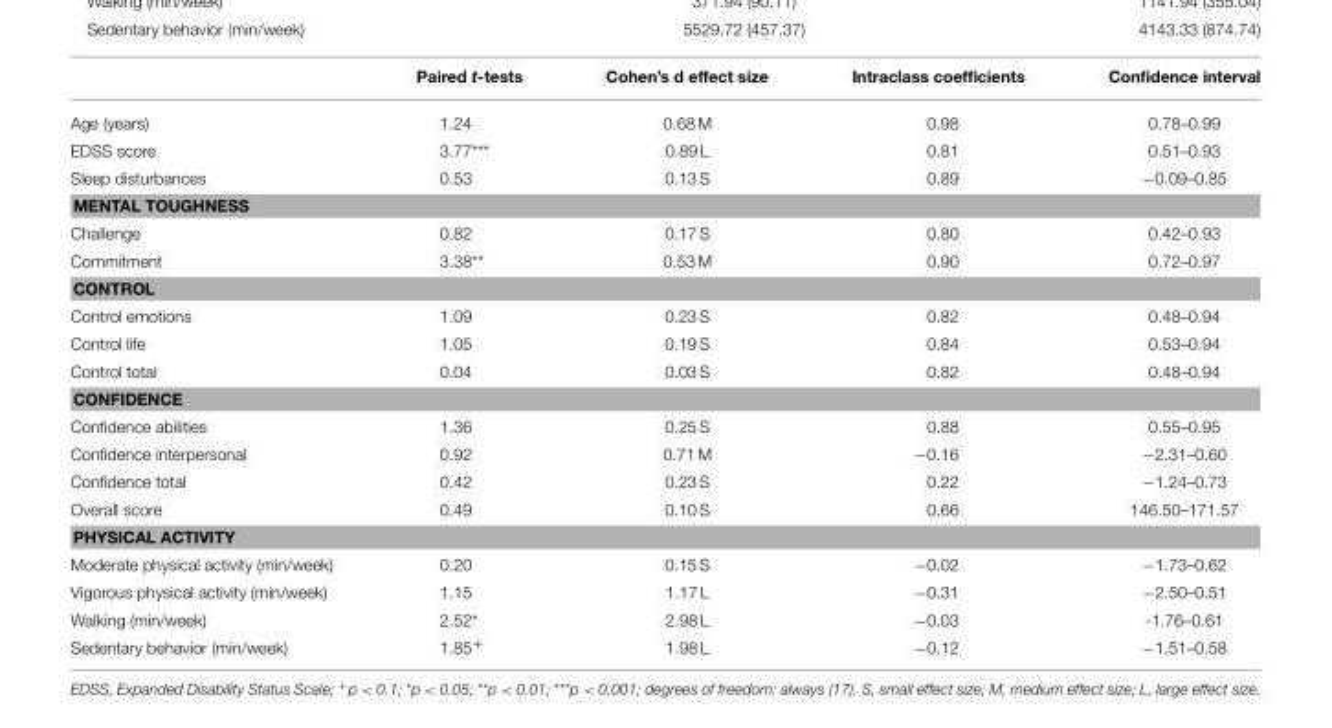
<table><thead><tr><td></td><td>Paired t-tests</td><td>Cohen’s d effect size</td><td>Intraclass coefficients</td><td>Confidence interval</td></tr></thead><tbody><tr><td>Age (years)</td><td>1.24</td><td>0.68 M</td><td>0.98</td><td>0.78–0.99</td></tr><tr><td>EDSS score</td><td>3.77***</td><td>0.89 L</td><td>0.81</td><td>0.51–0.93</td></tr><tr><td>Sleep disturbances</td><td>0.53</td><td>0.13 S</td><td>0.89</td><td>−0.09–0.85</td></tr><tr><td colspan="5">MENTAL TOUGHNESS</td></tr><tr><td>Challenge</td><td>0.82</td><td>0.17 S</td><td>0.80</td><td>0.42–0.93</td></tr><tr><td>Commitment</td><td>3.38**</td><td>0.53 M</td><td>0.90</td><td>0.72–0.97</td></tr><tr><td colspan="5">CONTROL</td></tr><tr><td>Control emotions</td><td>1.09</td><td>0.23 S</td><td>0.82</td><td>0.48–0.94</td></tr><tr><td>Control life</td><td>1.05</td><td>0.19 S</td><td>0.84</td><td>0.53–0.94</td></tr><tr><td>Control total</td><td>0.04</td><td>0.03 S</td><td>0.82</td><td>0.48–0.94</td></tr><tr><td colspan="5">CONFIDENCE</td></tr><tr><td>Confidence abilities</td><td>1.36</td><td>0.25 S</td><td>0.88</td><td>0.55–0.95</td></tr><tr><td>Confidence interpersonal</td><td>0.92</td><td>0.71 M</td><td>−0.16</td><td>−2.31–0.60</td></tr><tr><td>Confidence total</td><td>0.42</td><td>0.23 S</td><td>0.22</td><td>−1.24–0.73</td></tr><tr><td>Overall score</td><td>0.49</td><td>0.10 S</td><td>0.66</td><td>146.50–171.57</td></tr><tr><td colspan="5">PHYSICAL ACTIVITY</td></tr><tr><td>Moderate physical activity (min/week)</td><td>0.20</td><td>0.15 S</td><td>−0.02</td><td>−1.73–0.62</td></tr><tr><td>Vigorous physical activity (min/week)</td><td>1.15</td><td>1.17 L</td><td>−0.31</td><td>−2.50–0.51</td></tr><tr><td>Walking (min/week)</td><td>2.52*</td><td>2.98 L</td><td>−0.03</td><td>-1.76–0.61</td></tr><tr><td>Sedentary behavior (min/week)</td><td>1.85<sup>+</sup></td><td>1.98 L</td><td>−0.12</td><td>−1.51–0.58</td></tr></tbody></table>